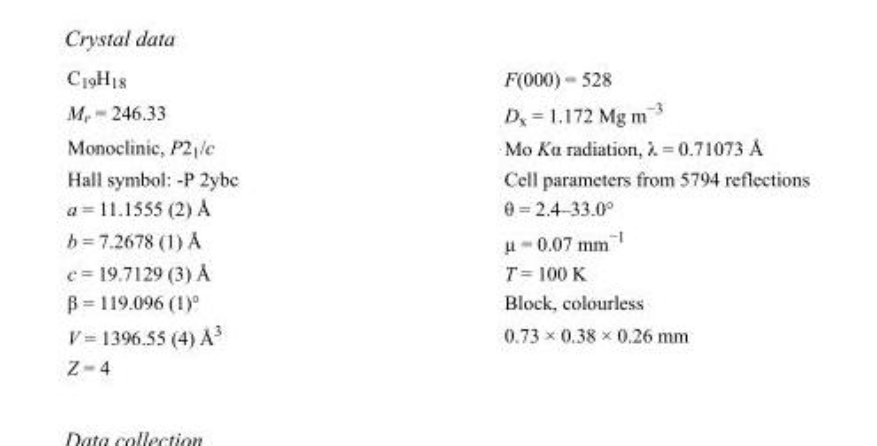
<table><tbody><tr><td>C<sub>19</sub>H<sub>18</sub></td><td>F(000) = 528</td></tr><tr><td>M<sub>r</sub> = 246.33</td><td>D<sub>x</sub> = 1.172 Mg m<sup>−3</sup></td></tr><tr><td>Monoclinic, P2<sub>1</sub>/c</td><td>Mo Kα radiation, λ = 0.71073 Å</td></tr><tr><td>Hall symbol: -P 2ybc</td><td>Cell parameters from 5794 reflections</td></tr><tr><td>a = 11.1555 (2) Å</td><td>θ = 2.4–33.0°</td></tr><tr><td>b = 7.2678 (1) Å</td><td>µ = 0.07 mm<sup>−1</sup></td></tr><tr><td>c = 19.7129 (3) Å</td><td>T = 100 K</td></tr><tr><td>β = 119.096 (1)°</td><td>Block, colourless</td></tr><tr><td>V = 1396.55 (4) Å<sup>3</sup></td><td>0.73 × 0.38 × 0.26 mm</td></tr><tr><td>Z = 4</td><td></td></tr></tbody></table>